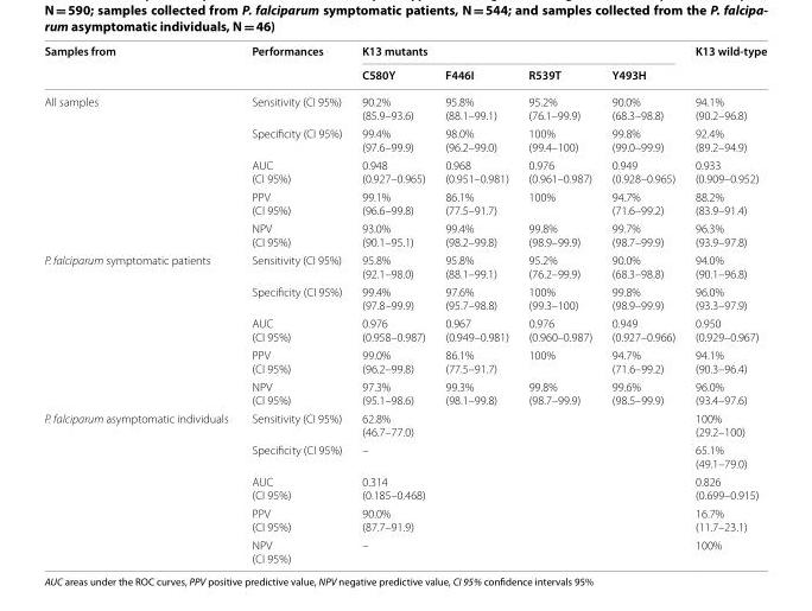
<table><thead><tr><td rowspan="2">Samples from</td><td rowspan="2">Performances</td><td colspan="4">K13 mutants</td><td rowspan="2">K13 wild‑type</td></tr><tr><td>C580Y</td><td>F446I</td><td>R539T</td><td>Y493H</td></tr></thead><tbody><tr><td rowspan="5">All samples</td><td>Sensitivity (CI 95%)</td><td>90.2% (85.9–93.6)</td><td>95.8% (88.1–99.1)</td><td>95.2% (76.1–99.9)</td><td>90.0% (68.3–98.8)</td><td>94.1% (90.2–96.8)</td></tr><tr><td>Specificity (CI 95%)</td><td>99.4% (97.6–99.9)</td><td>98.0% (96.2–99.0)</td><td>100% (99.4–100)</td><td>99.8% (99.0–99.9)</td><td>92.4% (89.2–94.9)</td></tr><tr><td>AUC (CI 95%)</td><td>0.948 (0.927–0.965)</td><td>0.968 (0.951–0.981)</td><td>0.976 (0.961–0.987)</td><td>0.949 (0.928–0.965)</td><td>0.933 (0.909–0.952)</td></tr><tr><td>PPV (CI 95%)</td><td>99.1% (96.6–99.8)</td><td>86.1% (77.5–91.7)</td><td>100%</td><td>94.7% (71.6–99.2)</td><td>88.2% (83.9–91.4)</td></tr><tr><td>NPV (CI 95%)</td><td>93.0% (90.1–95.1)</td><td>99.4% (98.2–99.8)</td><td>99.8% (98.9–99.9)</td><td>99.7% (98.7–99.9)</td><td>96.3% (93.9–97.8)</td></tr><tr><td rowspan="5">P. falciparum symptomatic patients</td><td>Sensitivity (CI 95%)</td><td>95.8% (92.1–98.0)</td><td>95.8% (88.1–99.1)</td><td>95.2% (76.2–99.9)</td><td>90.0% (68.3–98.8)</td><td>94.0% (90.1–96.8)</td></tr><tr><td>Specificity (CI 95%)</td><td>99.4% (97.8–99.9)</td><td>97.6% (95.7–98.8)</td><td>100% (99.3–100)</td><td>99.8% (98.9–99.9)</td><td>96.0% (93.3–97.9)</td></tr><tr><td>AUC (CI 95%)</td><td>0.976 (0.958–0.987)</td><td>0.967 (0.949–0.981)</td><td>0.976 (0.960–0.987)</td><td>0.949 (0.927–0.966)</td><td>0.950 (0.929–0.967)</td></tr><tr><td>PPV (CI 95%)</td><td>99.0% (96.2–99.8)</td><td>86.1% (77.5–91.7)</td><td>100%</td><td>94.7% (71.6–99.2)</td><td>94.1% (90.3–96.4)</td></tr><tr><td>NPV (CI 95%)</td><td>97.3% (95.1–98.6)</td><td>99.3% (98.1–99.8)</td><td>99.8% (98.7–99.9)</td><td>99.6% (98.5–99.9)</td><td>96.0% (93.4–97.6)</td></tr><tr><td rowspan="5">P. falciparum asymptomatic individuals</td><td>Sensitivity (CI 95%)</td><td>62.8% (46.7–77.0)</td><td></td><td></td><td></td><td>100% (29.2–100)</td></tr><tr><td>Specificity (CI 95%)</td><td>–</td><td></td><td></td><td></td><td>65.1% (49.1–79.0)</td></tr><tr><td>AUC (CI 95%)</td><td>0.314 (0.185–0.468)</td><td></td><td></td><td></td><td>0.826 (0.699–0.915)</td></tr><tr><td>PPV (CI 95%)</td><td>90.0% (87.7–91.9)</td><td></td><td></td><td></td><td>16.7% (11.7–23.1)</td></tr><tr><td>NPV (CI 95%)</td><td>–</td><td></td><td></td><td></td><td>100%</td></tr></tbody></table>